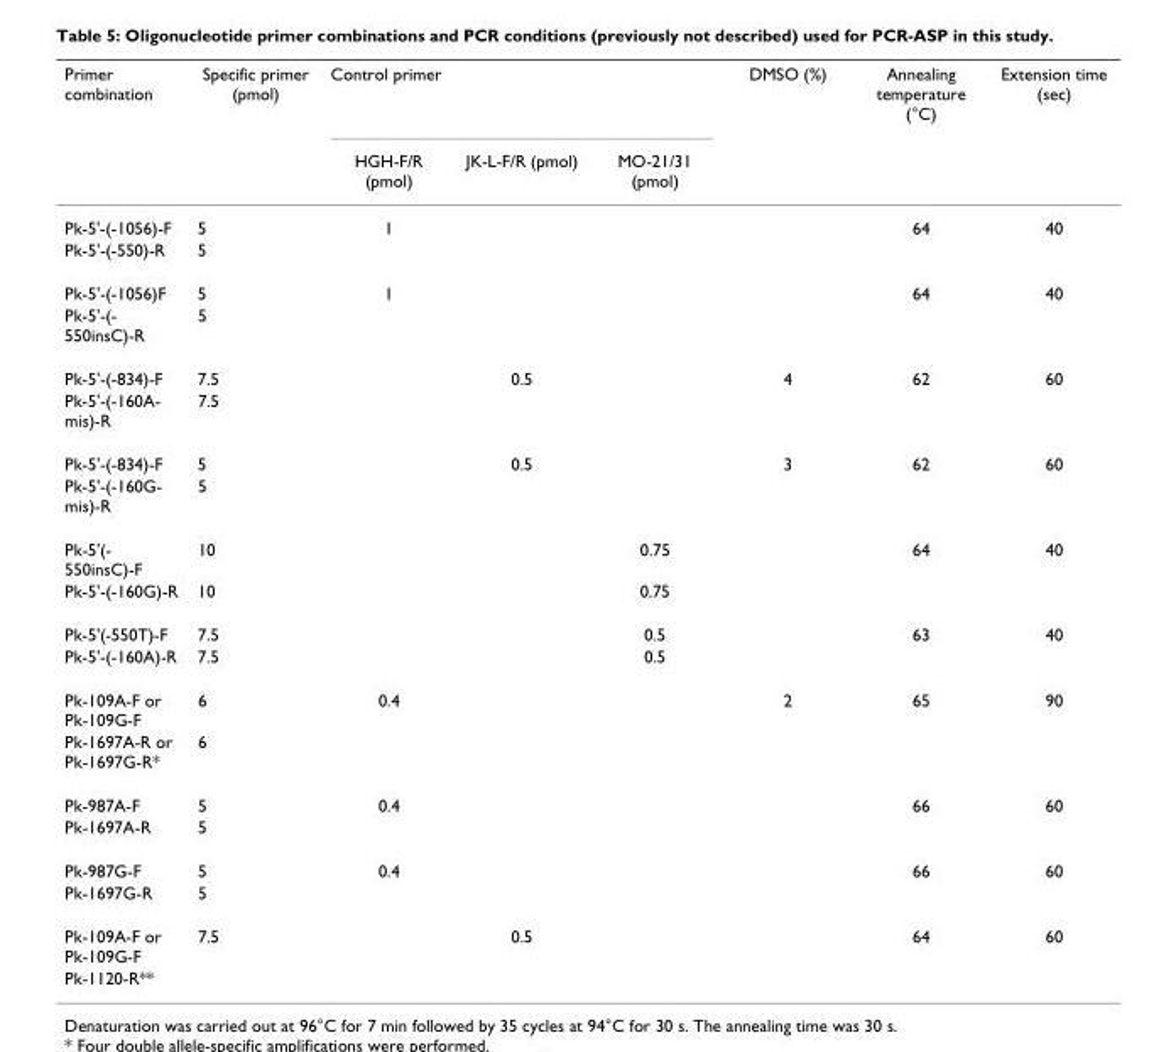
<table><thead><tr><td rowspan="2">Primer combination</td><td rowspan="2">Specific primer (pmol)</td><td colspan="3">Control primer</td><td rowspan="2">DMSO (%)</td><td rowspan="2">Annealing temperature (°C)</td><td rowspan="2">Extension time (sec)</td></tr><tr><td>HGH-F/R (pmol)</td><td>JK-L-F/R (pmol)</td><td>MO-21/31 (pmol)</td></tr></thead><tbody><tr><td>Pk-5&#x27;-(-1056)-F</td><td>5</td><td>1</td><td></td><td></td><td></td><td>64</td><td>40</td></tr><tr><td>Pk-5&#x27;-(-550)-R</td><td>5</td><td></td><td></td><td></td><td></td><td></td><td></td></tr><tr><td>Pk-5&#x27;-(-1056)F</td><td>5</td><td>1</td><td></td><td></td><td></td><td>64</td><td>40</td></tr><tr><td>Pk-5&#x27;-(- 550insC)-R</td><td>5</td><td></td><td></td><td></td><td></td><td></td><td></td></tr><tr><td>Pk-5&#x27;-(-834)-F</td><td>7.5</td><td></td><td>0.5</td><td></td><td>4</td><td>62</td><td>60</td></tr><tr><td>Pk-5&#x27;-(-160A- mis)-R</td><td>7.5</td><td></td><td></td><td></td><td></td><td></td><td></td></tr><tr><td>Pk-5&#x27;-(-834)-F</td><td>5</td><td></td><td>0.5</td><td></td><td>3</td><td>62</td><td>60</td></tr><tr><td>Pk-5&#x27;-(-160G- mis)-R</td><td>5</td><td></td><td></td><td></td><td></td><td></td><td></td></tr><tr><td>Pk-5&#x27;(- 550insC)-F</td><td>10</td><td></td><td></td><td>0.75</td><td></td><td>64</td><td>40</td></tr><tr><td>Pk-5&#x27;-(-160G)-R</td><td>10</td><td></td><td></td><td>0.75</td><td></td><td></td><td></td></tr><tr><td>Pk-5&#x27;(-550T)-F</td><td>7.5</td><td></td><td></td><td>0.5</td><td></td><td>63</td><td>40</td></tr><tr><td>Pk-5&#x27;-(-160A)-R</td><td>7.5</td><td></td><td></td><td>0.5</td><td></td><td></td><td></td></tr><tr><td>Pk-109A-F or Pk-109G-F</td><td>6</td><td>0.4</td><td></td><td></td><td>2</td><td>65</td><td>90</td></tr><tr><td>Pk-1697A-R or Pk-1697G-R*</td><td>6</td><td></td><td></td><td></td><td></td><td></td><td></td></tr><tr><td>Pk-987A-F</td><td>5</td><td>0.4</td><td></td><td></td><td></td><td>66</td><td>60</td></tr><tr><td>Pk-1697A-R</td><td>5</td><td></td><td></td><td></td><td></td><td></td><td></td></tr><tr><td>Pk-987G-F</td><td>5</td><td>0.4</td><td></td><td></td><td></td><td>66</td><td>60</td></tr><tr><td>Pk-1697G-R</td><td>5</td><td></td><td></td><td></td><td></td><td></td><td></td></tr><tr><td>Pk-109A-F or Pk-109G-F</td><td>7.5</td><td></td><td>0.5</td><td></td><td></td><td>64</td><td>60</td></tr><tr><td>Pk-1120-R**</td><td></td><td></td><td></td><td></td><td></td><td></td><td></td></tr></tbody></table>